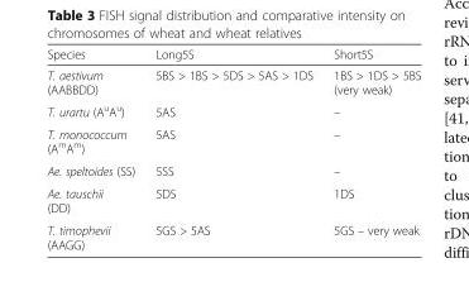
<table><thead><tr><td>Species</td><td>Long5S</td><td>Short5S</td></tr></thead><tbody><tr><td>T. aestivum (AABBDD)</td><td>5BS &gt; 1BS &gt; 5DS &gt; 5AS &gt; 1DS</td><td>1BS &gt; 1DS &gt; 5BS (very weak)</td></tr><tr><td>T. urartu (A<sup>u</sup>A<sup>u</sup>)</td><td>5AS</td><td>–</td></tr><tr><td>T. monococcum (A<sup>m</sup>A<sup>m</sup>)</td><td>5AS</td><td>–</td></tr><tr><td>Ae. speltoides (SS)</td><td>5SS</td><td>–</td></tr><tr><td>Ae. tauschii (DD)</td><td>5DS</td><td>1DS</td></tr><tr><td>T. timophevii (AAGG)</td><td>5GS &gt; 5AS</td><td>5GS – very weak</td></tr></tbody></table>